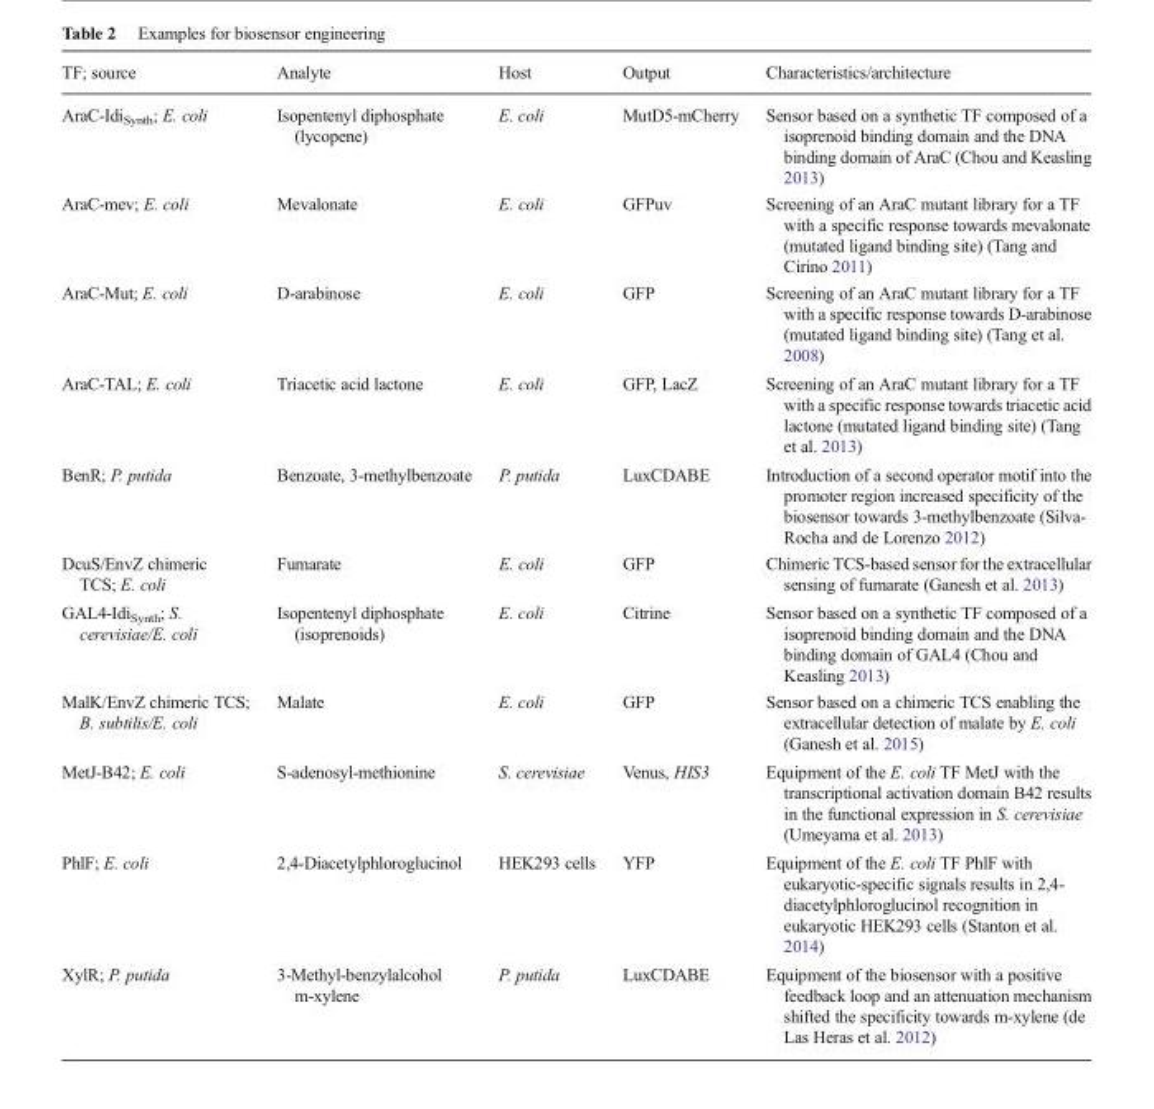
<table><thead><tr><td>TF; source</td><td>Analyte</td><td>Host</td><td>Output</td><td>Characteristics/architecture</td></tr></thead><tbody><tr><td>AraC-Idi<sub>Synth</sub>; E. coli</td><td>Isopentenyl diphosphate (lycopene)</td><td>E. coli</td><td>MutD5-mCherry</td><td>Sensor based on a synthetic TF composed of a isoprenoid binding domain and the DNA binding domain of AraC (Chou and Keasling 2013)</td></tr><tr><td>AraC-mev; E. coli</td><td>Mevalonate</td><td>E. coli</td><td>GFPuv</td><td>Screening of an AraC mutant library for a TF with a specific response towards mevalonate (mutated ligand binding site) (Tang and Cirino 2011)</td></tr><tr><td>AraC-Mut; E. coli</td><td>D-arabinose</td><td>E. coli</td><td>GFP</td><td>Screening of an AraC mutant library for a TF with a specific response towards D-arabinose (mutated ligand binding site) (Tang et al. 2008)</td></tr><tr><td>AraC-TAL; E. coli</td><td>Triacetic acid lactone</td><td>E. coli</td><td>GFP, LacZ</td><td>Screening of an AraC mutant library for a TF with a specific response towards triacetic acid lactone (mutated ligand binding site) (Tang et al. 2013)</td></tr><tr><td>BenR; P. putida</td><td>Benzoate, 3-methylbenzoate</td><td>P. putida</td><td>LuxCDABE</td><td>Introduction of a second operator motif into the promoter region increased specificity of the biosensor towards 3-methylbenzoate (Silva- Rocha and de Lorenzo 2012)</td></tr><tr><td>DcuS/EnvZ chimeric TCS; E. coli</td><td>Fumarate</td><td>E. coli</td><td>GFP</td><td>Chimeric TCS-based sensor for the extracellular sensing of fumarate (Ganesh et al. 2013)</td></tr><tr><td>GAL4-Idi<sub>Synth</sub>; S. cerevisiae/E. coli</td><td>Isopentenyl diphosphate (isoprenoids)</td><td>E. coli</td><td>Citrine</td><td>Sensor based on a synthetic TF composed of a isoprenoid binding domain and the DNA binding domain of GAL4 (Chou and Keasling 2013)</td></tr><tr><td>MalK/EnvZ chimeric TCS; B. subtilis/E. coli</td><td>Malate</td><td>E. coli</td><td>GFP</td><td>Sensor based on a chimeric TCS enabling the extracellular detection of malate by E. coli (Ganesh et al. 2015)</td></tr><tr><td>MetJ-B42; E. coli</td><td>S-adenosyl-methionine</td><td>S. cerevisiae</td><td>Venus, HIS3</td><td>Equipment of the E. coli TF MetJ with the transcriptional activation domain B42 results in the functional expression in S. cerevisiae (Umeyama et al. 2013)</td></tr><tr><td>PhlF; E. coli</td><td>2,4-Diacetylphloroglucinol</td><td>HEK293 cells</td><td>YFP</td><td>Equipment of the E. coli TF PhlF with eukaryotic-specific signals results in 2,4- diacetylphloroglucinol recognition in eukaryotic HEK293 cells (Stanton et al. 2014)</td></tr><tr><td>XylR; P. putida</td><td>3-Methyl-benzylalcohol m-xylene</td><td>P. putida</td><td>LuxCDABE</td><td>Equipment of the biosensor with a positive feedback loop and an attenuation mechanism shifted the specificity towards m-xylene (de Las Heras et al. 2012)</td></tr></tbody></table>